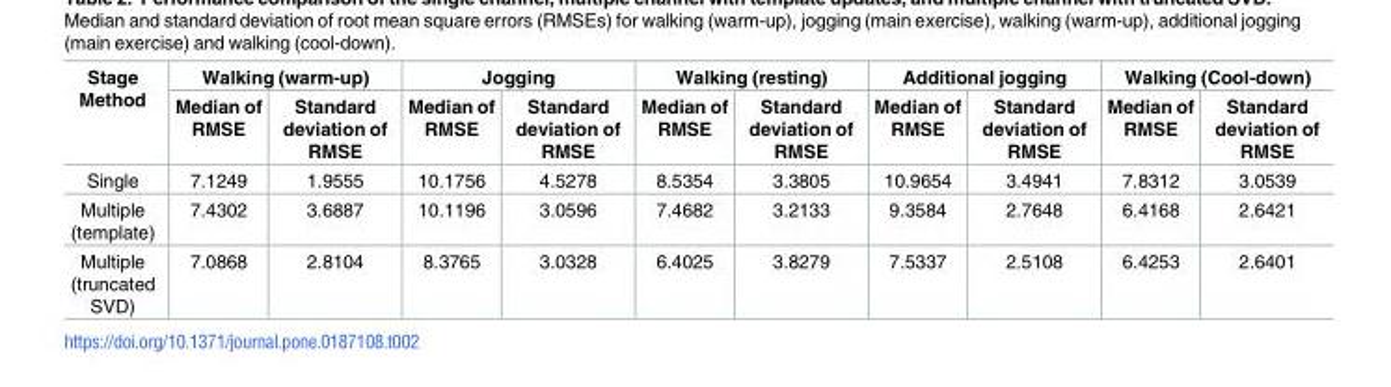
<table><thead><tr><td rowspan="2">Stage Method</td><td colspan="2">Walking (warm-up)</td><td colspan="2">Jogging</td><td colspan="2">Walking (resting)</td><td colspan="2">Additional jogging</td><td colspan="2">Walking (Cool-down)</td></tr><tr><td>Median of RMSE</td><td>Standard deviation of RMSE</td><td>Median of RMSE</td><td>Standard deviation of RMSE</td><td>Median of RMSE</td><td>Standard deviation of RMSE</td><td>Median of RMSE</td><td>Standard deviation of RMSE</td><td>Median of RMSE</td><td>Standard deviation of RMSE</td></tr></thead><tbody><tr><td>Single</td><td>7.1249</td><td>1.9555</td><td>10.1756</td><td>4.5278</td><td>8.5354</td><td>3.3805</td><td>10.9654</td><td>3.4941</td><td>7.8312</td><td>3.0539</td></tr><tr><td>Multiple (template)</td><td>7.4302</td><td>3.6887</td><td>10.1196</td><td>3.0596</td><td>7.4682</td><td>3.2133</td><td>9.3584</td><td>2.7648</td><td>6.4168</td><td>2.6421</td></tr><tr><td>Multiple (truncated SVD)</td><td>7.0868</td><td>2.8104</td><td>8.3765</td><td>3.0328</td><td>6.4025</td><td>3.8279</td><td>7.5337</td><td>2.5108</td><td>6.4253</td><td>2.6401</td></tr></tbody></table>